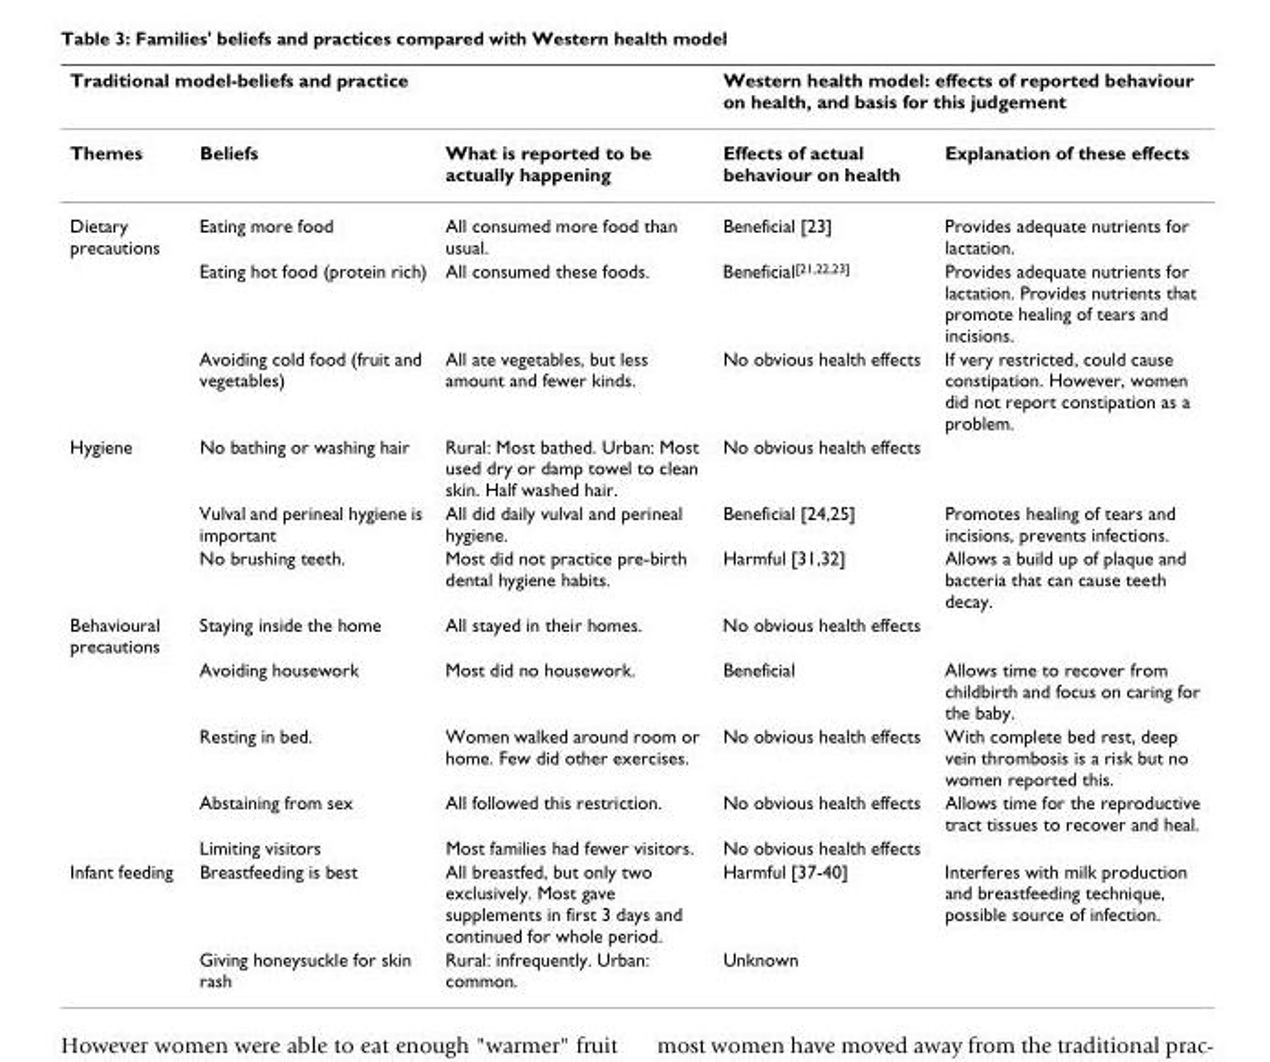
<table><thead><tr><td colspan="3">Traditional model-beliefs and practice</td><td colspan="2">Western health model: effects of reported behaviour on health, and basis for this judgement</td></tr><tr><td>Themes</td><td>Beliefs</td><td>What is reported to be actually happening</td><td>Effects of actual behaviour on health</td><td>Explanation of these effects</td></tr></thead><tbody><tr><td rowspan="3">Dietary precautions</td><td>Eating more food</td><td>All consumed more food than usual.</td><td>Beneficial [23]</td><td>Provides adequate nutrients for lactation.</td></tr><tr><td>Eating hot food (protein rich)</td><td>All consumed these foods.</td><td>Beneficial<sup>[21,22,23]</sup></td><td>Provides adequate nutrients for lactation. Provides nutrients that promote healing of tears and incisions.</td></tr><tr><td>Avoiding cold food (fruit and vegetables)</td><td>All ate vegetables, but less amount and fewer kinds.</td><td>No obvious health effects</td><td>If very restricted, could cause constipation. However, women did not report constipation as a problem.</td></tr><tr><td rowspan="3">Hygiene</td><td>No bathing or washing hair</td><td>Rural: Most bathed. Urban: Most used dry or damp towel to clean skin. Half washed hair.</td><td>No obvious health effects</td><td></td></tr><tr><td>Vulval and perineal hygiene is important</td><td>All did daily vulval and perineal hygiene.</td><td>Beneficial [24,25]</td><td>Promotes healing of tears and incisions, prevents infections.</td></tr><tr><td>No brushing teeth.</td><td>Most did not practice pre-birth dental hygiene habits.</td><td>Harmful [31,32]</td><td>Allows a build up of plaque and bacteria that can cause teeth decay.</td></tr><tr><td rowspan="5">Behavioural precautions</td><td>Staying inside the home</td><td>All stayed in their homes.</td><td>No obvious health effects</td><td></td></tr><tr><td>Avoiding housework</td><td>Most did no housework.</td><td>Beneficial</td><td>Allows time to recover from childbirth and focus on caring for the baby.</td></tr><tr><td>Resting in bed.</td><td>Women walked around room or home. Few did other exercises.</td><td>No obvious health effects</td><td>With complete bed rest, deep vein thrombosis is a risk but no women reported this.</td></tr><tr><td>Abstaining from sex</td><td>All followed this restriction.</td><td>No obvious health effects</td><td>Allows time for the reproductive tract tissues to recover and heal.</td></tr><tr><td>Limiting visitors</td><td>Most families had fewer visitors.</td><td>No obvious health effects</td><td></td></tr><tr><td rowspan="2">Infant feeding</td><td>Breastfeeding is best</td><td>All breastfed, but only two exclusively. Most gave supplements in first 3 days and continued for whole period.</td><td>Harmful [37-40]</td><td>Interferes with milk production and breastfeeding technique, possible source of infection.</td></tr><tr><td>Giving honeysuckle for skin rash</td><td>Rural: infrequently. Urban: common.</td><td>Unknown</td><td></td></tr></tbody></table>